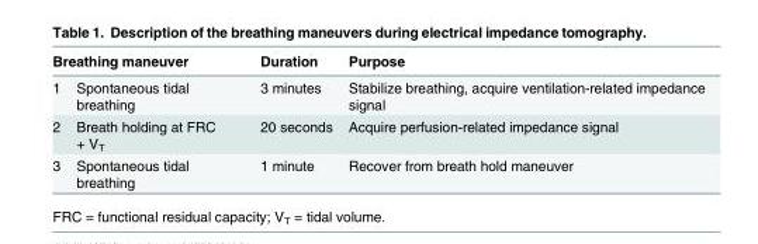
<table><thead><tr><td colspan="2">Breathing maneuver</td><td rowspan="2">Duration 3 minutes</td><td rowspan="2">Purpose Stabilize breathing, acquire ventilation-related impedance signal</td></tr><tr><td>1</td><td>Spontaneous tidal breathing</td></tr></thead><tbody><tr><td>2</td><td>Breath holding at FRC + V<sub>T</sub></td><td>20 seconds</td><td>Acquire perfusion-related impedance signal</td></tr><tr><td>3</td><td>Spontaneous tidal breathing</td><td>1 minute</td><td>Recover from breath hold maneuver</td></tr></tbody></table>